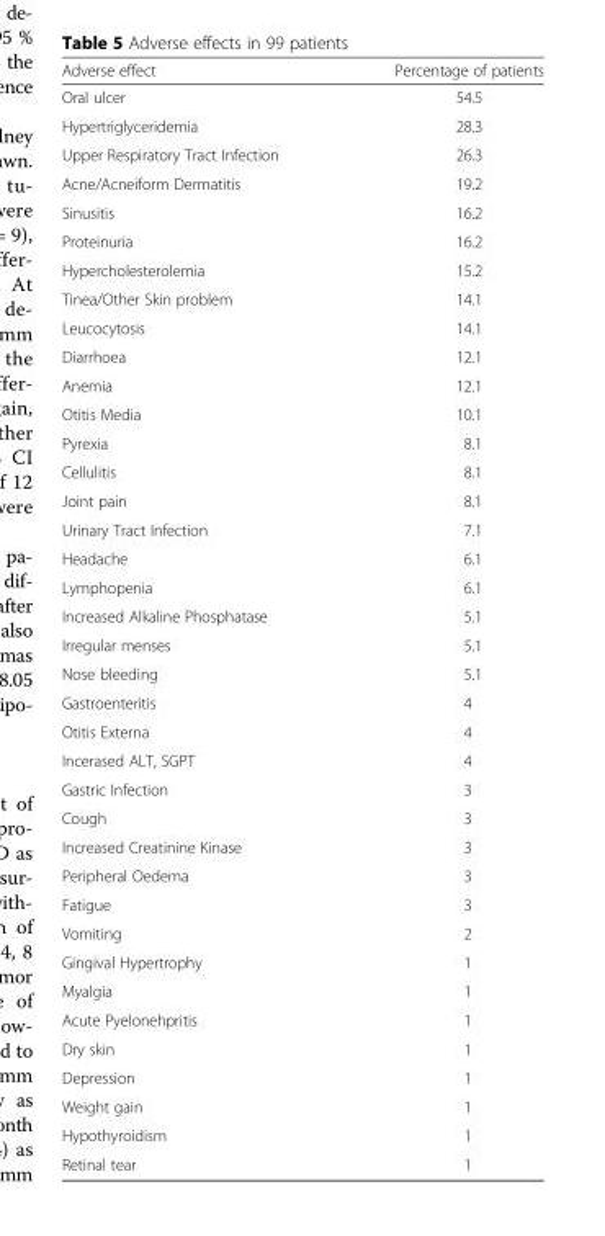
<table><thead><tr><td>Adverse effect</td><td>Percentage of patients</td></tr></thead><tbody><tr><td>Oral ulcer</td><td>54.5</td></tr><tr><td>Hypertriglyceridemia</td><td>28.3</td></tr><tr><td>Upper Respiratory Tract Infection</td><td>26.3</td></tr><tr><td>Acne/Acneiform Dermatitis</td><td>19.2</td></tr><tr><td>Sinusitis</td><td>16.2</td></tr><tr><td>Proteinuria</td><td>16.2</td></tr><tr><td>Hypercholesterolemia</td><td>15.2</td></tr><tr><td>Tinea/Other Skin problem</td><td>14.1</td></tr><tr><td>Leucocytosis</td><td>14.1</td></tr><tr><td>Diarrhoea</td><td>12.1</td></tr><tr><td>Anemia</td><td>12.1</td></tr><tr><td>Otitis Media</td><td>10.1</td></tr><tr><td>Pyrexia</td><td>8.1</td></tr><tr><td>Cellulitis</td><td>8.1</td></tr><tr><td>Joint pain</td><td>8.1</td></tr><tr><td>Urinary Tract Infection</td><td>7.1</td></tr><tr><td>Headache</td><td>6.1</td></tr><tr><td>Lymphopenia</td><td>6.1</td></tr><tr><td>Increased Alkaline Phosphatase</td><td>5.1</td></tr><tr><td>Irregular menses</td><td>5.1</td></tr><tr><td>Nose bleeding</td><td>5.1</td></tr><tr><td>Gastroenteritis</td><td>4</td></tr><tr><td>Otitis Externa</td><td>4</td></tr><tr><td>Incerased ALT, SGPT</td><td>4</td></tr><tr><td>Gastric Infection</td><td>3</td></tr><tr><td>Cough</td><td>3</td></tr><tr><td>Increased Creatinine Kinase</td><td>3</td></tr><tr><td>Peripheral Oedema</td><td>3</td></tr><tr><td>Fatigue</td><td>3</td></tr><tr><td>Vomiting</td><td>2</td></tr><tr><td>Gingival Hypertrophy</td><td>1</td></tr><tr><td>Myalgia</td><td>1</td></tr><tr><td>Acute Pyelonehpritis</td><td>1</td></tr><tr><td>Dry skin</td><td>1</td></tr><tr><td>Depression</td><td>1</td></tr><tr><td>Weight gain</td><td>1</td></tr><tr><td>Hypothyroidism</td><td>1</td></tr><tr><td>Retinal tear</td><td>1</td></tr></tbody></table>